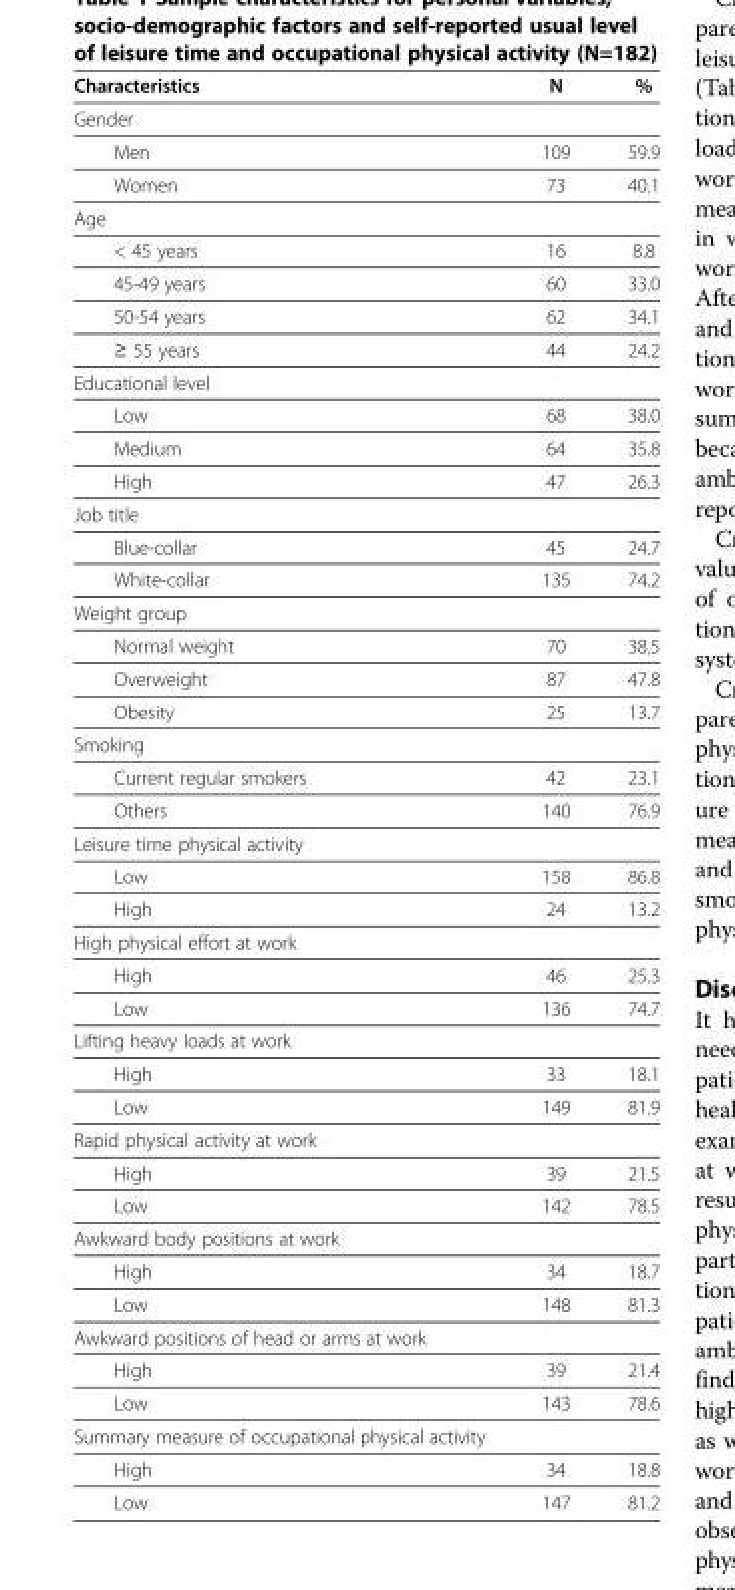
<table><thead><tr><td>Characteristics</td><td>N</td><td>%</td></tr></thead><tbody><tr><td colspan="3">Gender</td></tr><tr><td>Men</td><td>109</td><td>59.9</td></tr><tr><td>Women</td><td>73</td><td>40.1</td></tr><tr><td colspan="3">Age</td></tr><tr><td>&lt; 45 years</td><td>16</td><td>8.8</td></tr><tr><td>45-49 years</td><td>60</td><td>33.0</td></tr><tr><td>50-54 years</td><td>62</td><td>34.1</td></tr><tr><td>≥ 55 years</td><td>44</td><td>24.2</td></tr><tr><td colspan="3">Educational level</td></tr><tr><td>Low</td><td>68</td><td>38.0</td></tr><tr><td>Medium</td><td>64</td><td>35.8</td></tr><tr><td>High</td><td>47</td><td>26.3</td></tr><tr><td colspan="3">Job title</td></tr><tr><td>Blue-collar</td><td>45</td><td>24.7</td></tr><tr><td>White-collar</td><td>135</td><td>74.2</td></tr><tr><td colspan="3">Weight group</td></tr><tr><td>Normal weight</td><td>70</td><td>38.5</td></tr><tr><td>Overweight</td><td>87</td><td>47.8</td></tr><tr><td>Obesity</td><td>25</td><td>13.7</td></tr><tr><td colspan="3">Smoking</td></tr><tr><td>Current regular smokers</td><td>42</td><td>23.1</td></tr><tr><td>Others</td><td>140</td><td>76.9</td></tr><tr><td colspan="3">Leisure time physical activity</td></tr><tr><td>Low</td><td>158</td><td>86.8</td></tr><tr><td>High</td><td>24</td><td>13.2</td></tr><tr><td colspan="3">High physical effort at work</td></tr><tr><td>High</td><td>46</td><td>25.3</td></tr><tr><td>Low</td><td>136</td><td>74.7</td></tr><tr><td colspan="3">Lifting heavy loads at work</td></tr><tr><td>High</td><td>33</td><td>18.1</td></tr><tr><td>Low</td><td>149</td><td>81.9</td></tr><tr><td colspan="3">Rapid physical activity at work</td></tr><tr><td>High</td><td>39</td><td>21.5</td></tr><tr><td>Low</td><td>142</td><td>78.5</td></tr><tr><td colspan="3">Awkward body positions at work</td></tr><tr><td>High</td><td>34</td><td>18.7</td></tr><tr><td>Low</td><td>148</td><td>81.3</td></tr><tr><td colspan="3">Awkward positions of head or arms at work</td></tr><tr><td>High</td><td>39</td><td>21.4</td></tr><tr><td>Low</td><td>143</td><td>78.6</td></tr><tr><td colspan="3">Summary measure of occupational physical activity</td></tr><tr><td>High</td><td>34</td><td>18.8</td></tr><tr><td>Low</td><td>147</td><td>81.2</td></tr></tbody></table>